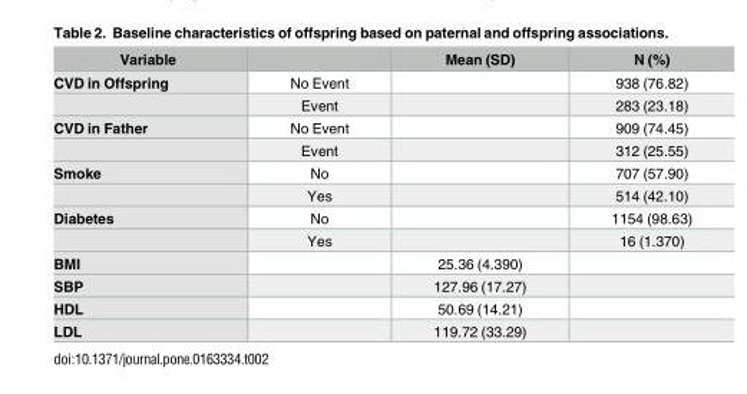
<table><thead><tr><td>Variable</td><td></td><td>Mean (SD)</td><td>N (%)</td></tr></thead><tbody><tr><td rowspan="2">CVD in Offspring</td><td>No Event</td><td></td><td>938 (76.82)</td></tr><tr><td>Event</td><td></td><td>283 (23.18)</td></tr><tr><td rowspan="2">CVD in Father</td><td>No Event</td><td></td><td>909 (74.45)</td></tr><tr><td>Event</td><td></td><td>312 (25.55)</td></tr><tr><td rowspan="2">Smoke</td><td>No</td><td></td><td>707 (57.90)</td></tr><tr><td>Yes</td><td></td><td>514 (42.10)</td></tr><tr><td rowspan="2">Diabetes</td><td>No</td><td></td><td>1154 (98.63)</td></tr><tr><td>Yes</td><td></td><td>16 (1.370)</td></tr><tr><td>BMI</td><td></td><td>25.36 (4.390)</td><td></td></tr><tr><td>SBP</td><td></td><td>127.96 (17.27)</td><td></td></tr><tr><td>HDL</td><td></td><td>50.69 (14.21)</td><td></td></tr><tr><td>LDL</td><td></td><td>119.72 (33.29)</td><td></td></tr></tbody></table>